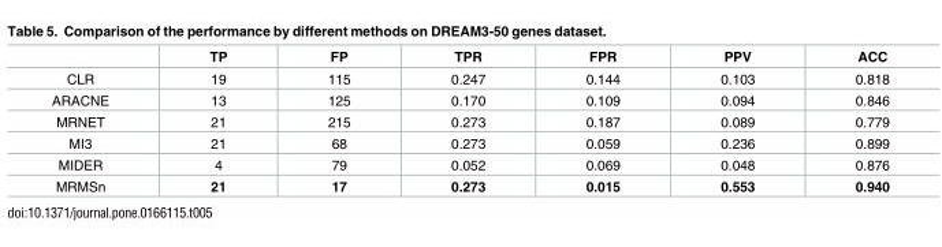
<table><thead><tr><td></td><td>TP</td><td>FP</td><td>TPR</td><td>FPR</td><td>PPV</td><td>ACC</td></tr></thead><tbody><tr><td>CLR</td><td>19</td><td>115</td><td>0.247</td><td>0.144</td><td>0.103</td><td>0.818</td></tr><tr><td>ARACNE</td><td>13</td><td>125</td><td>0.170</td><td>0.109</td><td>0.094</td><td>0.846</td></tr><tr><td>MRNET</td><td>21</td><td>215</td><td>0.273</td><td>0.187</td><td>0.089</td><td>0.779</td></tr><tr><td>MI3</td><td>21</td><td>68</td><td>0.273</td><td>0.059</td><td>0.236</td><td>0.899</td></tr><tr><td>MIDER</td><td>4</td><td>79</td><td>0.052</td><td>0.069</td><td>0.048</td><td>0.876</td></tr><tr><td>MRMSn</td><td>21</td><td>17</td><td>0.273</td><td>0.015</td><td>0.553</td><td>0.940</td></tr></tbody></table>